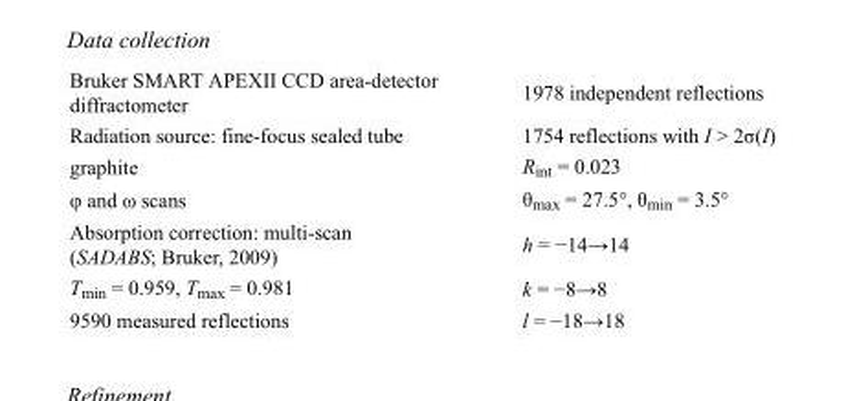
<table><tbody><tr><td>Bruker SMART APEXII CCD area-detector diffractometer</td><td>1978 independent reflections</td></tr><tr><td>Radiation source: fine-focus sealed tube</td><td>1754 reflections with I &gt; 2σ(I)</td></tr><tr><td>graphite</td><td>R<sub>int</sub> = 0.023</td></tr><tr><td>φ and ω scans</td><td>θ<sub>max</sub> = 27.5°, θ<sub>min</sub> = 3.5°</td></tr><tr><td>Absorption correction: multi-scan (SADABS; Bruker, 2009)</td><td>h = −14→14</td></tr><tr><td>T<sub>min</sub> = 0.959, T<sub>max</sub> = 0.981</td><td>k = −8→8</td></tr><tr><td>9590 measured reflections</td><td>l = −18→18</td></tr></tbody></table>